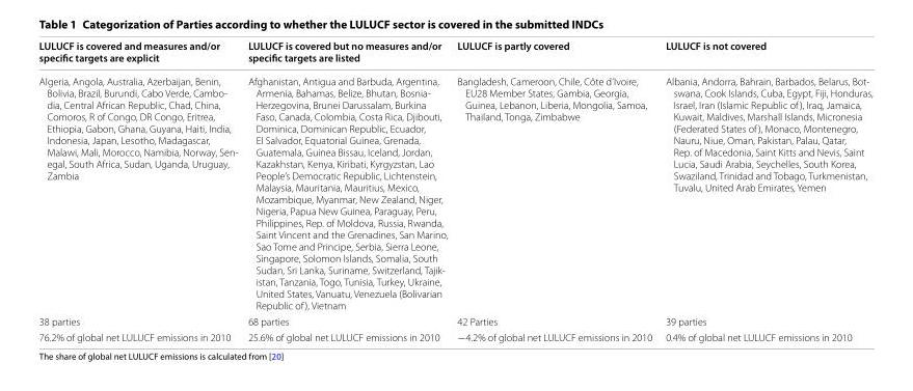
<table><thead><tr><td>LULUCF is covered and measures and/or specific targets are explicit</td><td>LULUCF is covered but no measures and/or specific targets are listed</td><td>LULUCF is partly covered</td><td>LULUCF is not covered</td></tr></thead><tbody><tr><td>Algeria, Angola, Australia, Azerbaijan, Benin, Bolivia, Brazil, Burundi, Cabo Verde, Cambo- dia, Central African Republic, Chad, China, Comoros, R of Congo, DR Congo, Eritrea, Ethiopia, Gabon, Ghana, Guyana, Haiti, India, Indonesia, Japan, Lesotho, Madagascar, Malawi, Mali, Morocco, Namibia, Norway, Sen- egal, South Africa, Sudan, Uganda, Uruguay, Zambia</td><td>Afghanistan, Antigua and Barbuda, Argentina, Armenia, Bahamas, Belize, Bhutan, Bosnia- Herzegovina, Brunei Darussalam, Burkina Faso, Canada, Colombia, Costa Rica, Djibouti, Dominica, Dominican Republic, Ecuador, El Salvador, Equatorial Guinea, Grenada, Guatemala, Guinea Bissau, Iceland, Jordan, Kazakhstan, Kenya, Kiribati, Kyrgyzstan, Lao People’s Democratic Republic, Lichtenstein, Malaysia, Mauritania, Mauritius, Mexico, Mozambique, Myanmar, New Zealand, Niger, Nigeria, Papua New Guinea, Paraguay, Peru, Philippines, Rep. of Moldova, Russia, Rwanda, Saint Vincent and the Grenadines, San Marino, Sao Tome and Principe, Serbia, Sierra Leone, Singapore, Solomon Islands, Somalia, South Sudan, Sri Lanka, Suriname, Switzerland, Tajik- istan, Tanzania, Togo, Tunisia, Turkey, Ukraine, United States, Vanuatu, Venezuela (Bolivarian Republic of), Vietnam</td><td>Bangladesh, Cameroon, Chile, Côte d’Ivoire, EU28 Member States, Gambia, Georgia, Guinea, Lebanon, Liberia, Mongolia, Samoa, Thailand, Tonga, Zimbabwe</td><td>Albania, Andorra, Bahrain, Barbados, Belarus, Bot- swana, Cook Islands, Cuba, Egypt, Fiji, Honduras, Israel, Iran (Islamic Republic of), Iraq, Jamaica, Kuwait, Maldives, Marshall Islands, Micronesia (Federated States of), Monaco, Montenegro, Nauru, Niue, Oman, Pakistan, Palau, Qatar, Rep. of Macedonia, Saint Kitts and Nevis, Saint Lucia, Saudi Arabia, Seychelles, South Korea, Swaziland, Trinidad and Tobago, Turkmenistan, Tuvalu, United Arab Emirates, Yemen</td></tr><tr><td>38 parties</td><td>68 parties</td><td>42 Parties</td><td>39 parties</td></tr><tr><td>76.2% of global net LULUCF emissions in 2010</td><td>25.6% of global net LULUCF emissions in 2010</td><td>−4.2% of global net LULUCF emissions in 2010</td><td>0.4% of global net LULUCF emissions in 2010</td></tr></tbody></table>